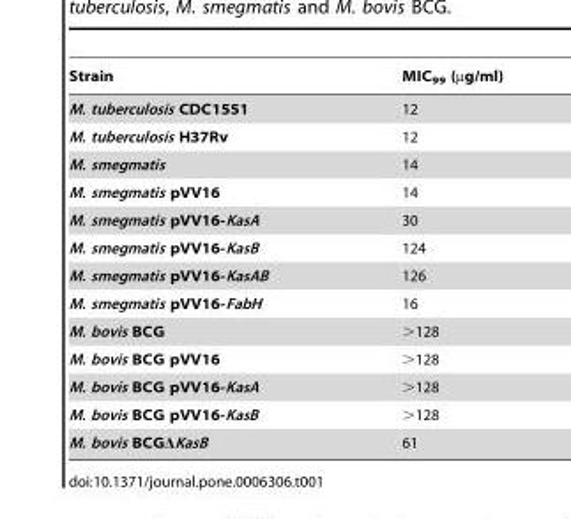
<table><thead><tr><td>Strain</td><td>MIC<sub>99</sub> (µg/ml)</td></tr></thead><tbody><tr><td>M. tuberculosis CDC1551</td><td>12</td></tr><tr><td>M. tuberculosis H37Rv</td><td>12</td></tr><tr><td>M. smegmatis</td><td>14</td></tr><tr><td>M. smegmatis pVV16</td><td>14</td></tr><tr><td>M. smegmatis pVV16-KasA</td><td>30</td></tr><tr><td>M. smegmatis pVV16-KasB</td><td>124</td></tr><tr><td>M. smegmatis pVV16-KasAB</td><td>126</td></tr><tr><td>M. smegmatis pVV16-FabH</td><td>16</td></tr><tr><td>M. bovis BCG</td><td>&gt;128</td></tr><tr><td>M. bovis BCG pVV16</td><td>&gt;128</td></tr><tr><td>M. bovis BCG pVV16-KasA</td><td>&gt;128</td></tr><tr><td>M. bovis BCG pVV16-KasB</td><td>&gt;128</td></tr><tr><td>M. bovis BCGΔKasB</td><td>61</td></tr></tbody></table>